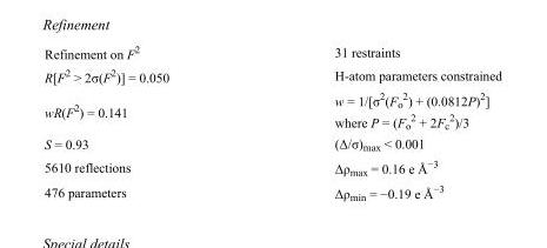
<table><tbody><tr><td>Refinement on F<sup>2</sup></td><td>31 restraints</td></tr><tr><td>R[F<sup>2</sup> &gt; 2σ(F<sup>2</sup>)] = 0.050</td><td>H-atom parameters constrained</td></tr><tr><td>wR(F<sup>2</sup>) = 0.141</td><td>w = 1/[σ<sup>2</sup>(F<sub>o</sub> <sup>2</sup>) + (0.0812P)<sup>2</sup>] where P = (F<sub>o</sub> <sup>2</sup> + 2F<sub>c</sub> <sup>2</sup>)/3</td></tr><tr><td>S = 0.93</td><td>(Δ/σ)<sub>max</sub> &lt; 0.001</td></tr><tr><td>5610 reflections</td><td>Δρ<sub>max</sub> = 0.16 e Å<sup>−3</sup></td></tr><tr><td>476 parameters</td><td>Δρ<sub>min</sub> = −0.19 e Å<sup>−3</sup></td></tr></tbody></table>